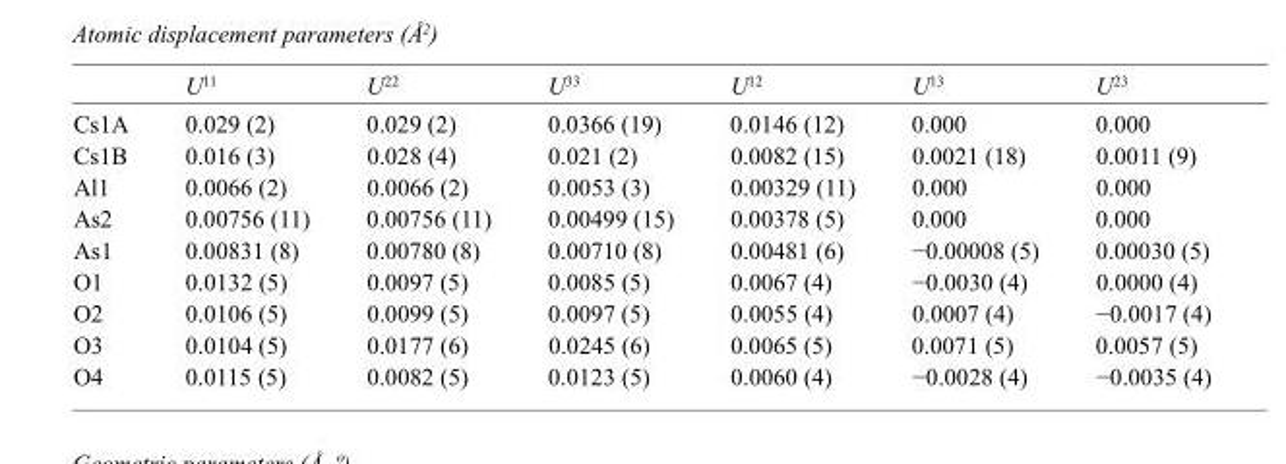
<table><thead><tr><td></td><td>U<sup>11</sup></td><td>U<sup>22</sup></td><td>U<sup>33</sup></td><td>U<sup>12</sup></td><td>U<sup>13</sup></td><td>U<sup>23</sup></td></tr></thead><tbody><tr><td>Cs1A</td><td>0.029 (2)</td><td>0.029 (2)</td><td>0.0366 (19)</td><td>0.0146 (12)</td><td>0.000</td><td>0.000</td></tr><tr><td>Cs1B</td><td>0.016 (3)</td><td>0.028 (4)</td><td>0.021 (2)</td><td>0.0082 (15)</td><td>0.0021 (18)</td><td>0.0011 (9)</td></tr><tr><td>Al1</td><td>0.0066 (2)</td><td>0.0066 (2)</td><td>0.0053 (3)</td><td>0.00329 (11)</td><td>0.000</td><td>0.000</td></tr><tr><td>As2</td><td>0.00756 (11)</td><td>0.00756 (11)</td><td>0.00499 (15)</td><td>0.00378 (5)</td><td>0.000</td><td>0.000</td></tr><tr><td>As1</td><td>0.00831 (8)</td><td>0.00780 (8)</td><td>0.00710 (8)</td><td>0.00481 (6)</td><td>−0.00008 (5)</td><td>0.00030 (5)</td></tr><tr><td>O1</td><td>0.0132 (5)</td><td>0.0097 (5)</td><td>0.0085 (5)</td><td>0.0067 (4)</td><td>−0.0030 (4)</td><td>0.0000 (4)</td></tr><tr><td>O2</td><td>0.0106 (5)</td><td>0.0099 (5)</td><td>0.0097 (5)</td><td>0.0055 (4)</td><td>0.0007 (4)</td><td>−0.0017 (4)</td></tr><tr><td>O3</td><td>0.0104 (5)</td><td>0.0177 (6)</td><td>0.0245 (6)</td><td>0.0065 (5)</td><td>0.0071 (5)</td><td>0.0057 (5)</td></tr><tr><td>O4</td><td>0.0115 (5)</td><td>0.0082 (5)</td><td>0.0123 (5)</td><td>0.0060 (4)</td><td>−0.0028 (4)</td><td>−0.0035 (4)</td></tr></tbody></table>